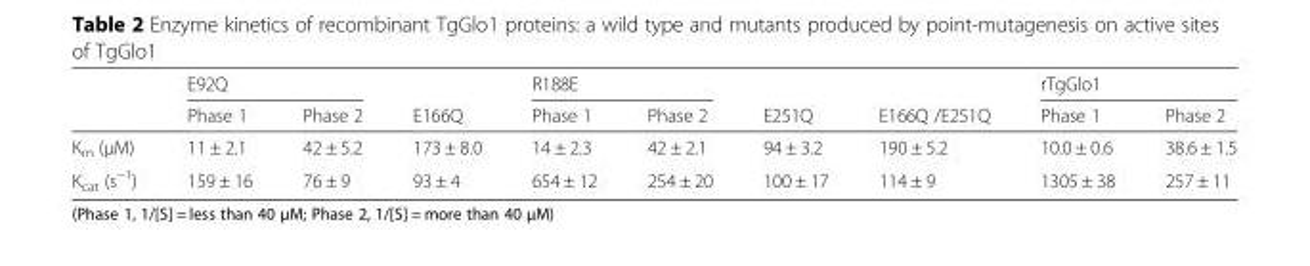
<table><thead><tr><td rowspan="2"></td><td colspan="2">E92Q</td><td rowspan="2">E166Q</td><td colspan="2">R188E</td><td rowspan="2">E251Q</td><td rowspan="2">E166Q /E251Q</td><td colspan="2">rTgGlo1</td></tr><tr><td>Phase 1</td><td>Phase 2</td><td>Phase 1</td><td>Phase 2</td><td>Phase 1</td><td>Phase 2</td></tr></thead><tbody><tr><td>K<sub>m</sub> (μM)</td><td>11 ± 2.1</td><td>42 ± 5.2</td><td>173 ± 8.0</td><td>14 ± 2.3</td><td>42 ± 2.1</td><td>94 ± 3.2</td><td>190 ± 5.2</td><td>10.0 ± 0.6</td><td>38.6 ± 1.5</td></tr><tr><td>K<sub>cat</sub> (s<sup>−1</sup>)</td><td>159 ± 16</td><td>76 ± 9</td><td>93 ± 4</td><td>654 ± 12</td><td>254 ± 20</td><td>100 ± 17</td><td>114 ± 9</td><td>1305 ± 38</td><td>257 ± 11</td></tr></tbody></table>